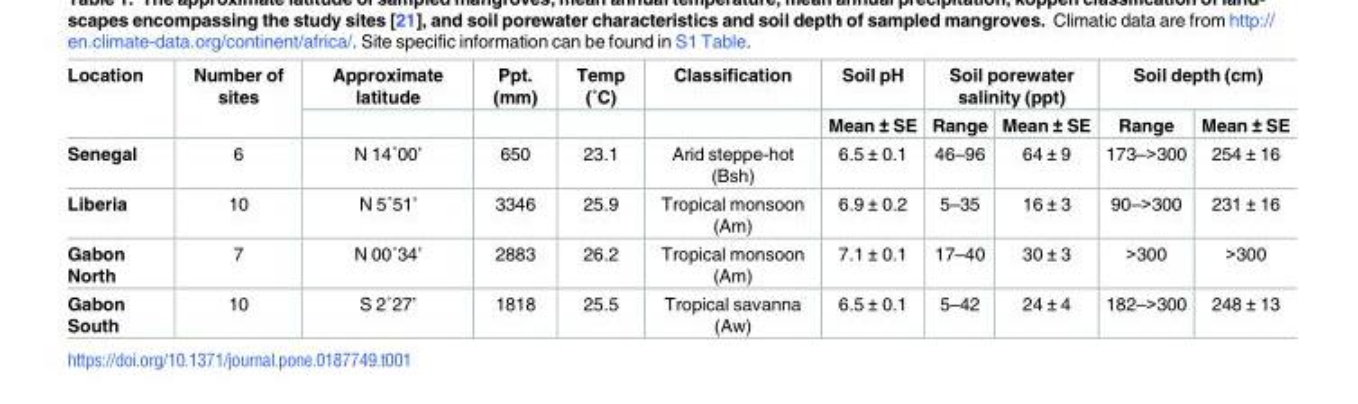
<table><thead><tr><td rowspan="2">Location</td><td rowspan="2">Number of sites</td><td rowspan="2">Approximate latitude</td><td rowspan="2">Ppt. (mm)</td><td rowspan="2">Temp (˚C)</td><td rowspan="2">Classification</td><td rowspan="2">Soil pH Mean ± SE</td><td colspan="2">Soil porewater salinity (ppt)</td><td colspan="2">Soil depth (cm)</td></tr><tr><td>Range</td><td>Mean ± SE</td><td>Range</td><td>Mean ± SE</td></tr></thead><tbody><tr><td>Senegal</td><td>6</td><td>N 14˚00’</td><td>650</td><td>23.1</td><td>Arid steppe-hot (Bsh)</td><td>6.5 ± 0.1</td><td>46–96</td><td>64 ± 9</td><td>173–&gt;300</td><td>254 ± 16</td></tr><tr><td>Liberia</td><td>10</td><td>N 5˚51’</td><td>3346</td><td>25.9</td><td>Tropical monsoon (Am)</td><td>6.9 ± 0.2</td><td>5–35</td><td>16 ± 3</td><td>90–&gt;300</td><td>231 ± 16</td></tr><tr><td>Gabon North</td><td>7</td><td>N 00˚34’</td><td>2883</td><td>26.2</td><td>Tropical monsoon (Am)</td><td>7.1 ± 0.1</td><td>17–40</td><td>30 ± 3</td><td>&gt;300</td><td>&gt;300</td></tr><tr><td>Gabon South</td><td>10</td><td>S 2˚27’</td><td>1818</td><td>25.5</td><td>Tropical savanna (Aw)</td><td>6.5 ± 0.1</td><td>5–42</td><td>24 ± 4</td><td>182–&gt;300</td><td>248 ± 13</td></tr></tbody></table>